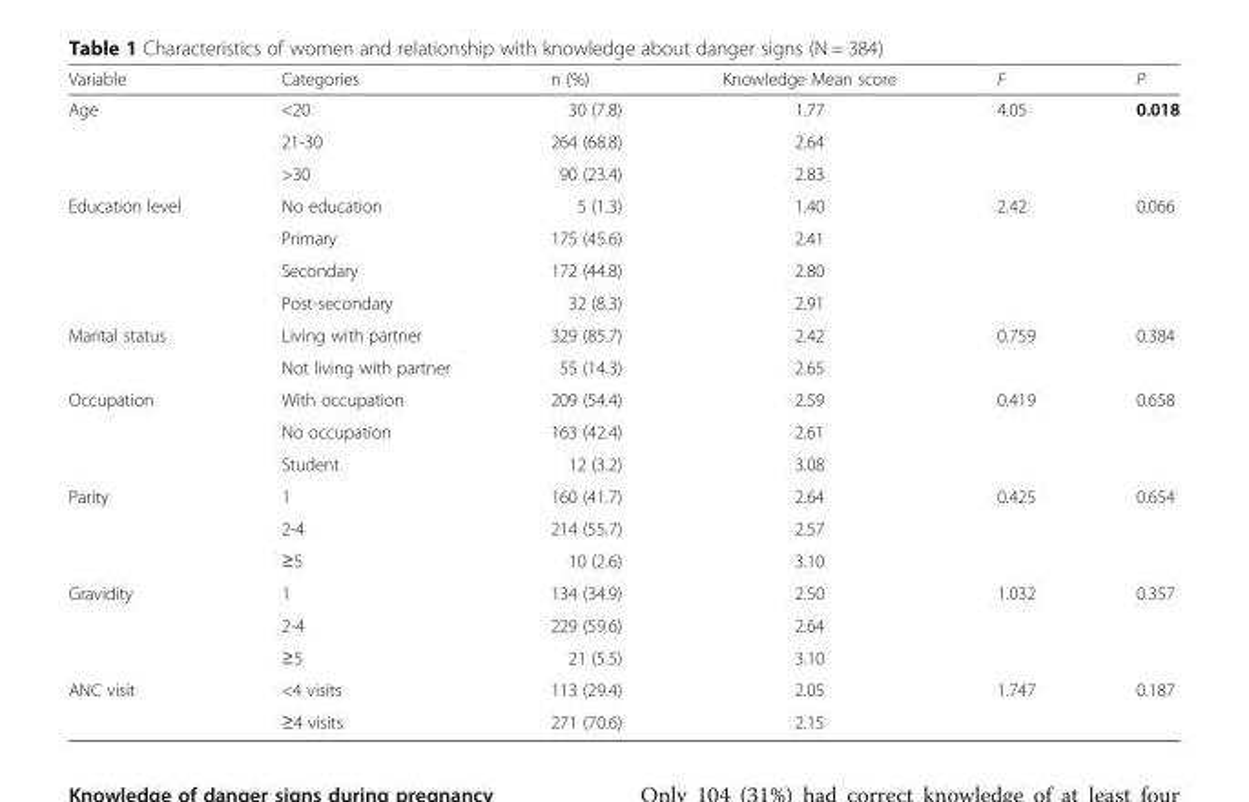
<table><thead><tr><td>Variable</td><td>Categories</td><td>n (%)</td><td>Knowledge Mean score</td><td>F</td><td>P</td></tr></thead><tbody><tr><td rowspan="3">Age</td><td>&lt;20</td><td>30 (7.8)</td><td>1.77</td><td rowspan="3">4.05</td><td rowspan="3">0.018</td></tr><tr><td>21-30</td><td>264 (68.8)</td><td>2.64</td></tr><tr><td>&gt;30</td><td>90 (23.4)</td><td>2.83</td></tr><tr><td rowspan="4">Education level</td><td>No education</td><td>5 (1.3)</td><td>1.40</td><td rowspan="4">2.42</td><td rowspan="4">0.066</td></tr><tr><td>Primary</td><td>175 (45.6)</td><td>2.41</td></tr><tr><td>Secondary</td><td>172 (44.8)</td><td>2.80</td></tr><tr><td>Post-secondary</td><td>32 (8.3)</td><td>2.91</td></tr><tr><td rowspan="2">Marital status</td><td>Living with partner</td><td>329 (85.7)</td><td>2.42</td><td rowspan="2">0.759</td><td rowspan="2">0.384</td></tr><tr><td>Not living with partner</td><td>55 (14.3)</td><td>2.65</td></tr><tr><td rowspan="3">Occupation</td><td>With occupation</td><td>209 (54.4)</td><td>2.59</td><td rowspan="3">0.419</td><td rowspan="3">0.658</td></tr><tr><td>No occupation</td><td>163 (42.4)</td><td>2.61</td></tr><tr><td>Student</td><td>12 (3.2)</td><td>3.08</td></tr><tr><td rowspan="3">Parity</td><td>1</td><td>160 (41.7)</td><td>2.64</td><td rowspan="3">0.425</td><td rowspan="3">0.654</td></tr><tr><td>2-4</td><td>214 (55.7)</td><td>2.57</td></tr><tr><td>≥5</td><td>10 (2.6)</td><td>3.10</td></tr><tr><td rowspan="3">Gravidity</td><td>1</td><td>134 (34.9)</td><td>2.50</td><td rowspan="3">1.032</td><td rowspan="3">0.357</td></tr><tr><td>2-4</td><td>229 (59.6)</td><td>2.64</td></tr><tr><td>≥5</td><td>21 (5.5)</td><td>3.10</td></tr><tr><td rowspan="2">ANC visit</td><td>&lt;4 visits</td><td>113 (29.4)</td><td>2.05</td><td rowspan="2">1.747</td><td rowspan="2">0.187</td></tr><tr><td>≥4 visits</td><td>271 (70.6)</td><td>2.15</td></tr></tbody></table>